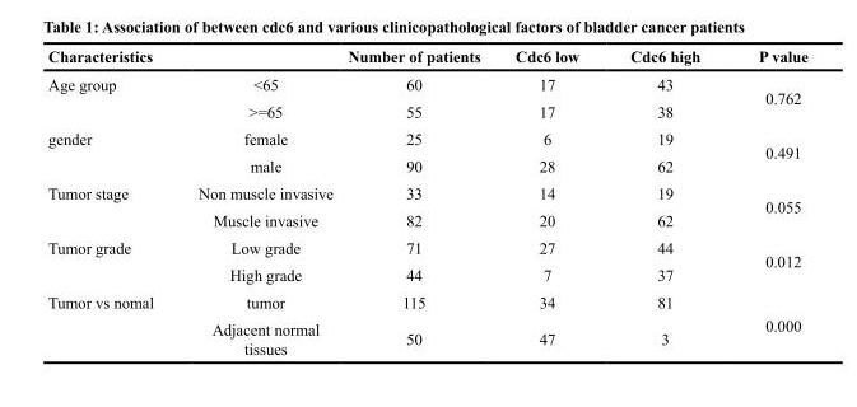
<table><thead><tr><td>Characteristics</td><td></td><td>Number of patients</td><td>Cdc6 low</td><td>Cdc6 high</td><td>P value</td></tr></thead><tbody><tr><td rowspan="2">Age group</td><td>&lt;65</td><td>60</td><td>17</td><td>43</td><td rowspan="2">0.762</td></tr><tr><td>&gt;=65</td><td>55</td><td>17</td><td>38</td></tr><tr><td rowspan="2">gender</td><td>female</td><td>25</td><td>6</td><td>19</td><td rowspan="2">0.491</td></tr><tr><td>male</td><td>90</td><td>28</td><td>62</td></tr><tr><td rowspan="2">Tumor stage</td><td>Non muscle invasive</td><td>33</td><td>14</td><td>19</td><td rowspan="2">0.055</td></tr><tr><td>Muscle invasive</td><td>82</td><td>20</td><td>62</td></tr><tr><td rowspan="2">Tumor grade</td><td>Low grade</td><td>71</td><td>27</td><td>44</td><td rowspan="2">0.012</td></tr><tr><td>High grade</td><td>44</td><td>7</td><td>37</td></tr><tr><td rowspan="2">Tumor vs nomal</td><td>tumor</td><td>115</td><td>34</td><td>81</td><td rowspan="2">0.000</td></tr><tr><td>Adjacent normal tissues</td><td>50</td><td>47</td><td>3</td></tr></tbody></table>